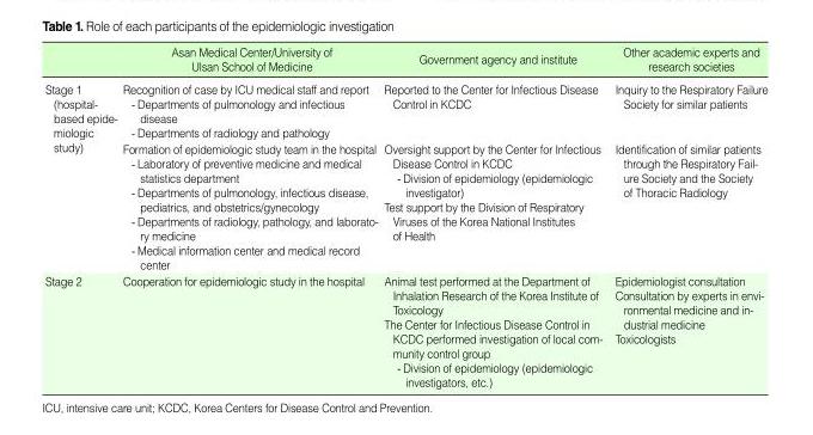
<table><thead><tr><td></td><td>Asan Medical Center/University of Ulsan School of Medicine</td><td>Government agency and institute</td><td>Other academic experts and research societies</td></tr></thead><tbody><tr><td rowspan="2">Stage 1 (hospital- based epide- miologic study)</td><td>Recognition of case by ICU medical staff and report - Departments of pulmonology and infectious disease - Departments of radiology and pathology</td><td>Reported to the Center for Infectious Disease Control in KCDC</td><td>Inquiry to the Respiratory Failure Society for similar patients</td></tr><tr><td>Formation of epidemiologic study team in the hospital - Laboratory of preventive medicine and medical statistics department - Departments of pulmonology, infectious disease, pediatrics, and obstetrics/gynecology - Departments of radiology, pathology, and laborato- ry medicine - Medical information center and medical record center</td><td>Oversight support by the Center for Infectious Disease Control in KCDC - Division of epidemiology (epidemiologic investigator) Test support by the Division of Respiratory Viruses of the Korea National Institutes of Health</td><td>Identification of similar patients through the Respiratory Fail- ure Society and the Society of Thoracic Radiology</td></tr><tr><td>Stage 2</td><td>Cooperation for epidemiologic study in the hospital</td><td>Animal test performed at the Department of Inhalation Research of the Korea Institute of Toxicology The Center for Infectious Disease Control in KCDC performed investigation of local com- munity control group - Division of epidemiology (epidemiologic investigators, etc.)</td><td>Epidemiologist consultation Consultation by experts in envi- ronmental medicine and in- dustrial medicine Toxicologists</td></tr></tbody></table>